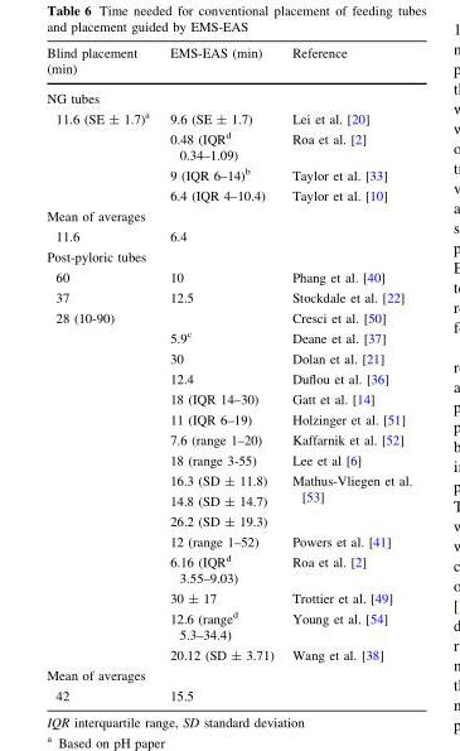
<table><thead><tr><td>Blind placement (min)</td><td>EMS-EAS (min)</td><td>Reference</td></tr></thead><tbody><tr><td colspan="3">NG tubes</td></tr><tr><td rowspan="4">11.6 (SE ± 1.7)<sup>a</sup></td><td>9.6 (SE ± 1.7)</td><td>Lei et al. [20]</td></tr><tr><td>0.48 (IQR<sup>d</sup> 0.34–1.09)</td><td>Roa et al. [2]</td></tr><tr><td>9 (IQR 6–14)<sup>b</sup></td><td>Taylor et al. [33]</td></tr><tr><td>6.4 (IQR 4–10.4)</td><td>Taylor et al. [10]</td></tr><tr><td colspan="3">Mean of averages</td></tr><tr><td>11.6</td><td>6.4</td><td></td></tr><tr><td colspan="3">Post-pyloric tubes</td></tr><tr><td>60</td><td>10</td><td>Phang et al. [40]</td></tr><tr><td>37</td><td>12.5</td><td>Stockdale et al. [22]</td></tr><tr><td rowspan="16">28 (10-90)</td><td></td><td>Cresci et al. [50]</td></tr><tr><td>5.9<sup>c</sup></td><td>Deane et al. [37]</td></tr><tr><td>30</td><td>Dolan et al. [21]</td></tr><tr><td>12.4</td><td>Duflou et al. [36]</td></tr><tr><td>18 (IQR 14–30)</td><td>Gatt et al. [14]</td></tr><tr><td>11 (IQR 6–19)</td><td>Holzinger et al. [51]</td></tr><tr><td>7.6 (range 1–20)</td><td>Kaffarnik et al. [52]</td></tr><tr><td>18 (range 3-55)</td><td>Lee et al [6]</td></tr><tr><td>16.3 (SD ± 11.8)</td><td rowspan="3">Mathus-Vliegen et al. [53]</td></tr><tr><td>14.8 (SD ± 14.7)</td></tr><tr><td>26.2 (SD ± 19.3)</td></tr><tr><td>12 (range 1–52)</td><td>Powers et al. [41]</td></tr><tr><td>6.16 (IQR<sup>d</sup> 3.55–9.03)</td><td>Roa et al. [2]</td></tr><tr><td>30 ± 17</td><td>Trottier et al. [49]</td></tr><tr><td>12.6 (range<sup>d</sup> 5.3–34.4)</td><td>Young et al. [54]</td></tr><tr><td>20.12 (SD ± 3.71)</td><td>Wang et al. [38]</td></tr><tr><td colspan="3">Mean of averages</td></tr><tr><td>42</td><td>15.5</td><td></td></tr></tbody></table>